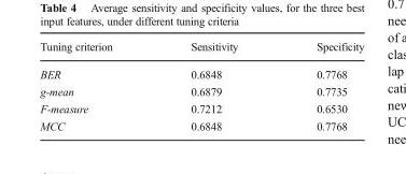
<table><thead><tr><td>Tuning criterion</td><td>Sensitivity</td><td>Specificity</td></tr></thead><tbody><tr><td>BER</td><td>0.6848</td><td>0.7768</td></tr><tr><td>g-mean</td><td>0.6879</td><td>0.7735</td></tr><tr><td>F-measure</td><td>0.7212</td><td>0.6530</td></tr><tr><td>MCC</td><td>0.6848</td><td>0.7768</td></tr></tbody></table>